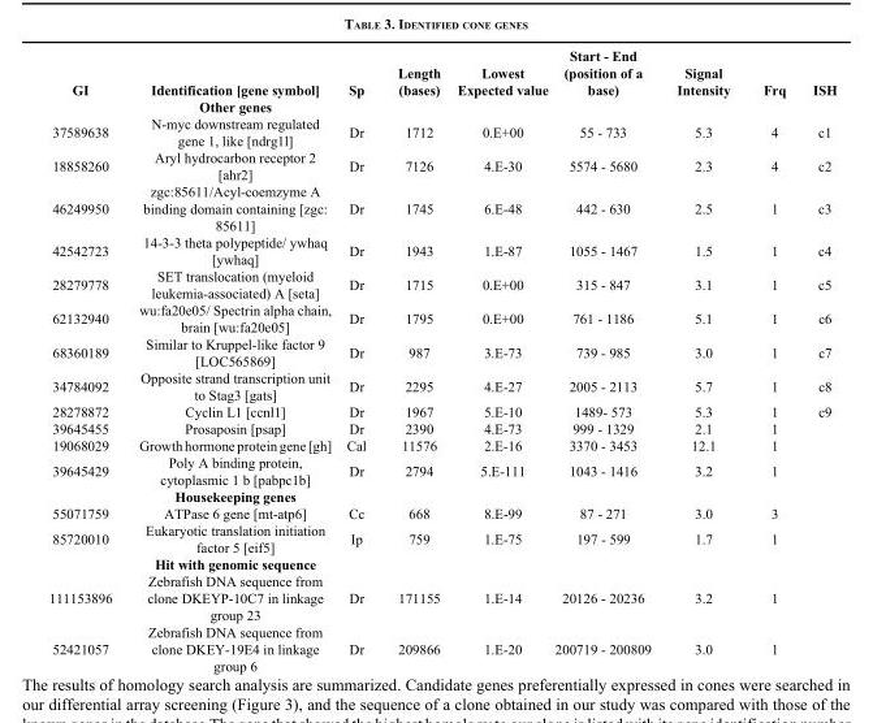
<table><thead><tr><td>GI</td><td>Identification [gene symbol]</td><td>Sp</td><td>Length (bases)</td><td>Lowest Expected value</td><td>Start - End (position of a base)</td><td>Signal Intensity</td><td>Frq</td><td>ISH</td></tr></thead><tbody><tr><td></td><td>Other genes</td><td></td><td></td><td></td><td></td><td></td><td></td><td></td></tr><tr><td>37589638</td><td>N-myc downstream regulated gene 1, like [ndrg1l]</td><td>Dr</td><td>1712</td><td>0.E+00</td><td>55 - 733</td><td>5.3</td><td>4</td><td>c1</td></tr><tr><td>18858260</td><td>Aryl hydrocarbon receptor 2 [ahr2]</td><td>Dr</td><td>7126</td><td>4.E-30</td><td>5574 - 5680</td><td>2.3</td><td>4</td><td>c2</td></tr><tr><td>46249950</td><td>zgc:85611/Acyl-coemzyme A binding domain containing [zgc: 85611]</td><td>Dr</td><td>1745</td><td>6.E-48</td><td>442 - 630</td><td>2.5</td><td>1</td><td>c3</td></tr><tr><td>42542723</td><td>14-3-3 theta polypeptide/ ywhaq [ywhaq]</td><td>Dr</td><td>1943</td><td>1.E-87</td><td>1055 - 1467</td><td>1.5</td><td>1</td><td>c4</td></tr><tr><td>28279778</td><td>SET translocation (myeloid leukemia-associated) A [seta]</td><td>Dr</td><td>1715</td><td>0.E+00</td><td>315 - 847</td><td>3.1</td><td>1</td><td>c5</td></tr><tr><td>62132940</td><td>wu:fa20e05/ Spectrin alpha chain, brain [wu:fa20e05]</td><td>Dr</td><td>1795</td><td>0.E+00</td><td>761 - 1186</td><td>5.1</td><td>1</td><td>c6</td></tr><tr><td>68360189</td><td>Similar to Kruppel-like factor 9 [LOC565869]</td><td>Dr</td><td>987</td><td>3.E-73</td><td>739 - 985</td><td>3.0</td><td>1</td><td>c7</td></tr><tr><td>34784092</td><td>Opposite strand transcription unit to Stag3 [gats]</td><td>Dr</td><td>2295</td><td>4.E-27</td><td>2005 - 2113</td><td>5.7</td><td>1</td><td>c8</td></tr><tr><td>28278872</td><td>Cyclin L1 [ccnl1]</td><td>Dr</td><td>1967</td><td>5.E-10</td><td>1489- 573</td><td>5.3</td><td>1</td><td>c9</td></tr><tr><td>39645455</td><td>Prosaposin [psap]</td><td>Dr</td><td>2390</td><td>4.E-73</td><td>999 - 1329</td><td>2.1</td><td>1</td><td></td></tr><tr><td>19068029</td><td>Growth hormone protein gene [gh]</td><td>Cal</td><td>11576</td><td>2.E-16</td><td>3370 - 3453</td><td>12.1</td><td>1</td><td></td></tr><tr><td rowspan="2">39645429</td><td>Poly A binding protein, cytoplasmic 1 b [pabpc1b]</td><td>Dr</td><td>2794</td><td>5.E-111</td><td>1043 - 1416</td><td>3.2</td><td>1</td><td></td></tr><tr><td>Housekeeping genes</td><td></td><td></td><td></td><td></td><td></td><td></td><td></td></tr><tr><td>55071759</td><td>ATPase 6 gene [mt-atp6]</td><td>Cc</td><td>668</td><td>8.E-99</td><td>87 - 271</td><td>3.0</td><td>3</td><td></td></tr><tr><td rowspan="2">85720010</td><td>Eukaryotic translation initiation factor 5 [eif5]</td><td>Ip</td><td>759</td><td>1.E-75</td><td>197 - 599</td><td>1.7</td><td>1</td><td></td></tr><tr><td>Hit with genomic sequence</td><td></td><td></td><td></td><td></td><td></td><td></td><td></td></tr><tr><td>111153896</td><td>Zebrafish DNA sequence from clone DKEYP-10C7 in linkage group 23</td><td>Dr</td><td>171155</td><td>1.E-14</td><td>20126 - 20236</td><td>3.2</td><td>1</td><td></td></tr><tr><td>52421057</td><td>Zebrafish DNA sequence from clone DKEY-19E4 in linkage group 6</td><td>Dr</td><td>209866</td><td>1.E-20</td><td>200719 - 200809</td><td>3.0</td><td>1</td><td></td></tr></tbody></table>